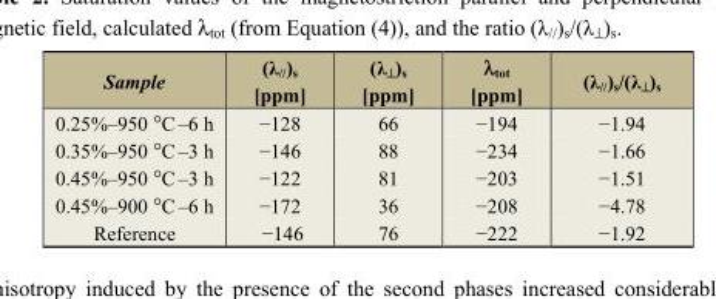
<table><thead><tr><td>Sample</td><td>(λ<sub>//</sub>)<sub>s</sub> [ppm]</td><td>(λ<sub>⊥</sub>)<sub>s</sub> [ppm]</td><td>λ<sub>tot</sub> [ppm]</td><td>(λ<sub>//</sub>)<sub>s</sub>/(λ<sub>⊥</sub>)<sub>s</sub></td></tr></thead><tbody><tr><td>0.25%–950 °C –6 h</td><td>−128</td><td>66</td><td>−194</td><td>−1.94</td></tr><tr><td>0.35%–950 °C –3 h</td><td>−146</td><td>88</td><td>−234</td><td>−1.66</td></tr><tr><td>0.45%–950 °C –3 h</td><td>−122</td><td>81</td><td>−203</td><td>−1.51</td></tr><tr><td>0.45%–900 °C –6 h</td><td>−172</td><td>36</td><td>−208</td><td>−4.78</td></tr><tr><td>Reference</td><td>−146</td><td>76</td><td>−222</td><td>−1.92</td></tr></tbody></table>